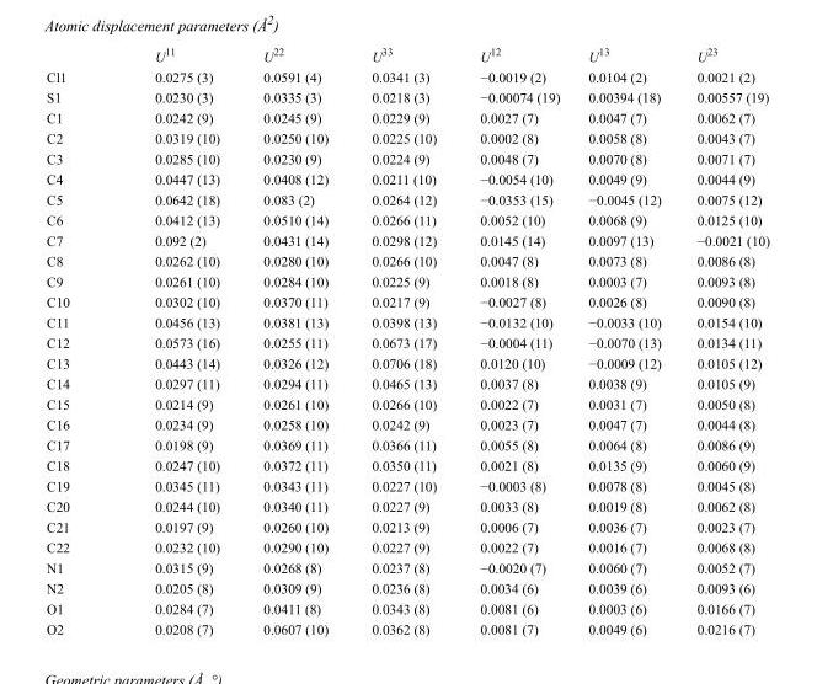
<table><thead><tr><td></td><td>U<sup>11</sup></td><td>U<sup>22</sup></td><td>U<sup>33</sup></td><td>U<sup>12</sup></td><td>U<sup>13</sup></td><td>U<sup>23</sup></td></tr></thead><tbody><tr><td>Cl1</td><td>0.0275 (3)</td><td>0.0591 (4)</td><td>0.0341 (3)</td><td>−0.0019 (2)</td><td>0.0104 (2)</td><td>0.0021 (2)</td></tr><tr><td>S1</td><td>0.0230 (3)</td><td>0.0335 (3)</td><td>0.0218 (3)</td><td>−0.00074 (19)</td><td>0.00394 (18)</td><td>0.00557 (19)</td></tr><tr><td>C1</td><td>0.0242 (9)</td><td>0.0245 (9)</td><td>0.0229 (9)</td><td>0.0027 (7)</td><td>0.0047 (7)</td><td>0.0062 (7)</td></tr><tr><td>C2</td><td>0.0319 (10)</td><td>0.0250 (10)</td><td>0.0225 (10)</td><td>0.0002 (8)</td><td>0.0058 (8)</td><td>0.0043 (7)</td></tr><tr><td>C3</td><td>0.0285 (10)</td><td>0.0230 (9)</td><td>0.0224 (9)</td><td>0.0048 (7)</td><td>0.0070 (8)</td><td>0.0071 (7)</td></tr><tr><td>C4</td><td>0.0447 (13)</td><td>0.0408 (12)</td><td>0.0211 (10)</td><td>−0.0054 (10)</td><td>0.0049 (9)</td><td>0.0044 (9)</td></tr><tr><td>C5</td><td>0.0642 (18)</td><td>0.083 (2)</td><td>0.0264 (12)</td><td>−0.0353 (15)</td><td>−0.0045 (12)</td><td>0.0075 (12)</td></tr><tr><td>C6</td><td>0.0412 (13)</td><td>0.0510 (14)</td><td>0.0266 (11)</td><td>0.0052 (10)</td><td>0.0068 (9)</td><td>0.0125 (10)</td></tr><tr><td>C7</td><td>0.092 (2)</td><td>0.0431 (14)</td><td>0.0298 (12)</td><td>0.0145 (14)</td><td>0.0097 (13)</td><td>−0.0021 (10)</td></tr><tr><td>C8</td><td>0.0262 (10)</td><td>0.0280 (10)</td><td>0.0266 (10)</td><td>0.0047 (8)</td><td>0.0073 (8)</td><td>0.0086 (8)</td></tr><tr><td>C9</td><td>0.0261 (10)</td><td>0.0284 (10)</td><td>0.0225 (9)</td><td>0.0018 (8)</td><td>0.0003 (7)</td><td>0.0093 (8)</td></tr><tr><td>C10</td><td>0.0302 (10)</td><td>0.0370 (11)</td><td>0.0217 (9)</td><td>−0.0027 (8)</td><td>0.0026 (8)</td><td>0.0090 (8)</td></tr><tr><td>C11</td><td>0.0456 (13)</td><td>0.0381 (13)</td><td>0.0398 (13)</td><td>−0.0132 (10)</td><td>−0.0033 (10)</td><td>0.0154 (10)</td></tr><tr><td>C12</td><td>0.0573 (16)</td><td>0.0255 (11)</td><td>0.0673 (17)</td><td>−0.0004 (11)</td><td>−0.0070 (13)</td><td>0.0134 (11)</td></tr><tr><td>C13</td><td>0.0443 (14)</td><td>0.0326 (12)</td><td>0.0706 (18)</td><td>0.0120 (10)</td><td>−0.0009 (12)</td><td>0.0105 (12)</td></tr><tr><td>C14</td><td>0.0297 (11)</td><td>0.0294 (11)</td><td>0.0465 (13)</td><td>0.0037 (8)</td><td>0.0038 (9)</td><td>0.0105 (9)</td></tr><tr><td>C15</td><td>0.0214 (9)</td><td>0.0261 (10)</td><td>0.0266 (10)</td><td>0.0022 (7)</td><td>0.0031 (7)</td><td>0.0050 (8)</td></tr><tr><td>C16</td><td>0.0234 (9)</td><td>0.0258 (10)</td><td>0.0242 (9)</td><td>0.0023 (7)</td><td>0.0047 (7)</td><td>0.0044 (8)</td></tr><tr><td>C17</td><td>0.0198 (9)</td><td>0.0369 (11)</td><td>0.0366 (11)</td><td>0.0055 (8)</td><td>0.0064 (8)</td><td>0.0086 (9)</td></tr><tr><td>C18</td><td>0.0247 (10)</td><td>0.0372 (11)</td><td>0.0350 (11)</td><td>0.0021 (8)</td><td>0.0135 (9)</td><td>0.0060 (9)</td></tr><tr><td>C19</td><td>0.0345 (11)</td><td>0.0343 (11)</td><td>0.0227 (10)</td><td>−0.0003 (8)</td><td>0.0078 (8)</td><td>0.0045 (8)</td></tr><tr><td>C20</td><td>0.0244 (10)</td><td>0.0340 (11)</td><td>0.0227 (9)</td><td>0.0033 (8)</td><td>0.0019 (8)</td><td>0.0062 (8)</td></tr><tr><td>C21</td><td>0.0197 (9)</td><td>0.0260 (10)</td><td>0.0213 (9)</td><td>0.0006 (7)</td><td>0.0036 (7)</td><td>0.0023 (7)</td></tr><tr><td>C22</td><td>0.0232 (10)</td><td>0.0290 (10)</td><td>0.0227 (9)</td><td>0.0022 (7)</td><td>0.0016 (7)</td><td>0.0068 (8)</td></tr><tr><td>N1</td><td>0.0315 (9)</td><td>0.0268 (8)</td><td>0.0237 (8)</td><td>−0.0020 (7)</td><td>0.0060 (7)</td><td>0.0052 (7)</td></tr><tr><td>N2</td><td>0.0205 (8)</td><td>0.0309 (9)</td><td>0.0236 (8)</td><td>0.0034 (6)</td><td>0.0039 (6)</td><td>0.0093 (6)</td></tr><tr><td>O1</td><td>0.0284 (7)</td><td>0.0411 (8)</td><td>0.0343 (8)</td><td>0.0081 (6)</td><td>0.0003 (6)</td><td>0.0166 (7)</td></tr><tr><td>O2</td><td>0.0208 (7)</td><td>0.0607 (10)</td><td>0.0362 (8)</td><td>0.0081 (7)</td><td>0.0049 (6)</td><td>0.0216 (7)</td></tr></tbody></table>